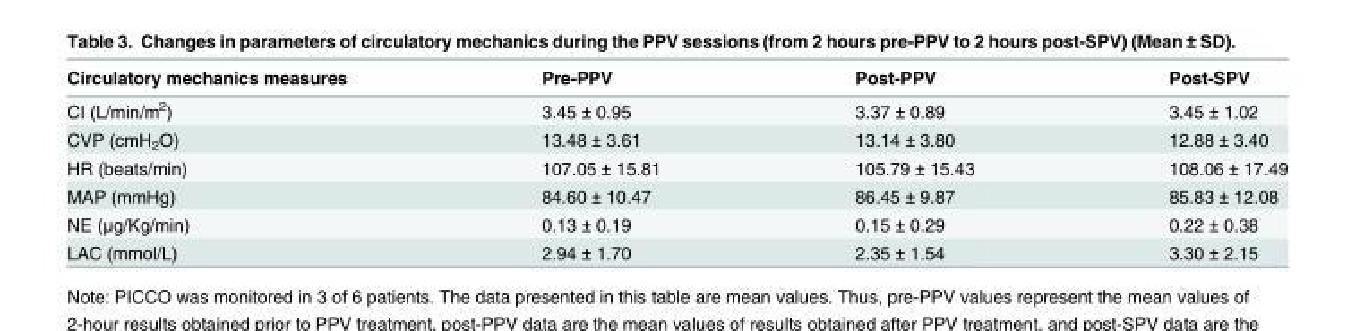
<table><thead><tr><td>Circulatory mechanics measures</td><td>Pre-PPV</td><td>Post-PPV</td><td>Post-SPV</td></tr></thead><tbody><tr><td>CI (L/min/m<sup>2</sup>)</td><td>3.45 ± 0.95</td><td>3.37 ± 0.89</td><td>3.45 ± 1.02</td></tr><tr><td>CVP (cmH<sub>2</sub>O)</td><td>13.48 ± 3.61</td><td>13.14 ± 3.80</td><td>12.88 ± 3.40</td></tr><tr><td>HR (beats/min)</td><td>107.05 ± 15.81</td><td>105.79 ± 15.43</td><td>108.06 ± 17.49</td></tr><tr><td>MAP (mmHg)</td><td>84.60 ± 10.47</td><td>86.45 ± 9.87</td><td>85.83 ± 12.08</td></tr><tr><td>NE (μg/Kg/min)</td><td>0.13 ± 0.19</td><td>0.15 ± 0.29</td><td>0.22 ± 0.38</td></tr><tr><td>LAC (mmol/L)</td><td>2.94 ± 1.70</td><td>2.35 ± 1.54</td><td>3.30 ± 2.15</td></tr></tbody></table>